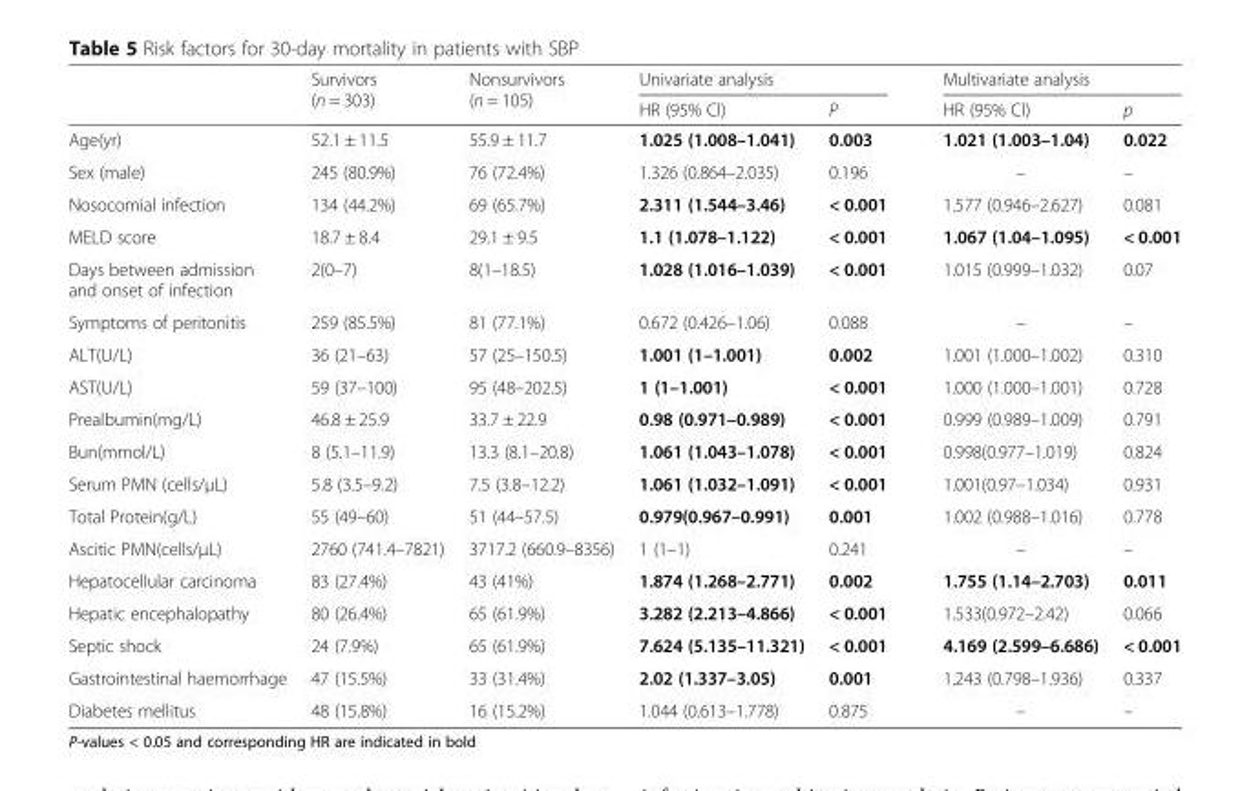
<table><thead><tr><td rowspan="2"></td><td rowspan="2">Survivors (n = 303)</td><td rowspan="2">Nonsurvivors (n = 105)</td><td colspan="2">Univariate analysis</td><td colspan="2">Multivariate analysis</td></tr><tr><td>HR (95% Cl)</td><td>P</td><td>HR (95% Cl)</td><td>p</td></tr></thead><tbody><tr><td>Age(yr)</td><td>52.1 ± 11.5</td><td>55.9 ± 11.7</td><td>1.025 (1.008–1.041)</td><td>0.003</td><td>1.021 (1.003–1.04)</td><td>0.022</td></tr><tr><td>Sex (male)</td><td>245 (80.9%)</td><td>76 (72.4%)</td><td>1.326 (0.864–2.035)</td><td>0.196</td><td>–</td><td>–</td></tr><tr><td>Nosocomial infection</td><td>134 (44.2%)</td><td>69 (65.7%)</td><td>2.311 (1.544–3.46)</td><td>&lt; 0.001</td><td>1.577 (0.946–2.627)</td><td>0.081</td></tr><tr><td>MELD score</td><td>18.7 ± 8.4</td><td>29.1 ± 9.5</td><td>1.1 (1.078–1.122)</td><td>&lt; 0.001</td><td>1.067 (1.04–1.095)</td><td>&lt; 0.001</td></tr><tr><td>Days between admission and onset of infection</td><td>2(0–7)</td><td>8(1–18.5)</td><td>1.028 (1.016–1.039)</td><td>&lt; 0.001</td><td>1.015 (0.999–1.032)</td><td>0.07</td></tr><tr><td>Symptoms of peritonitis</td><td>259 (85.5%)</td><td>81 (77.1%)</td><td>0.672 (0.426–1.06)</td><td>0.088</td><td>–</td><td>–</td></tr><tr><td>ALT(U/L)</td><td>36 (21–63)</td><td>57 (25–150.5)</td><td>1.001 (1–1.001)</td><td>0.002</td><td>1.001 (1.000–1.002)</td><td>0.310</td></tr><tr><td>AST(U/L)</td><td>59 (37–100)</td><td>95 (48–202.5)</td><td>1 (1–1.001)</td><td>&lt; 0.001</td><td>1.000 (1.000–1.001)</td><td>0.728</td></tr><tr><td>Prealbumin(mg/L)</td><td>46.8 ± 25.9</td><td>33.7 ± 22.9</td><td>0.98 (0.971–0.989)</td><td>&lt; 0.001</td><td>0.999 (0.989–1.009)</td><td>0.791</td></tr><tr><td>Bun(mmol/L)</td><td>8 (5.1–11.9)</td><td>13.3 (8.1–20.8)</td><td>1.061 (1.043–1.078)</td><td>&lt; 0.001</td><td>0.998(0.977–1.019)</td><td>0.824</td></tr><tr><td>Serum PMN (cells/μL)</td><td>5.8 (3.5–9.2)</td><td>7.5 (3.8–12.2)</td><td>1.061 (1.032–1.091)</td><td>&lt; 0.001</td><td>1.001(0.97–1.034)</td><td>0.931</td></tr><tr><td>Total Protein(g/L)</td><td>55 (49–60)</td><td>51 (44–57.5)</td><td>0.979(0.967–0.991)</td><td>0.001</td><td>1.002 (0.988–1.016)</td><td>0.778</td></tr><tr><td>Ascitic PMN(cells/μL)</td><td>2760 (741.4–7821)</td><td>3717.2 (660.9–8356)</td><td>1 (1–1)</td><td>0.241</td><td>–</td><td>–</td></tr><tr><td>Hepatocellular carcinoma</td><td>83 (27.4%)</td><td>43 (41%)</td><td>1.874 (1.268–2.771)</td><td>0.002</td><td>1.755 (1.14–2.703)</td><td>0.011</td></tr><tr><td>Hepatic encephalopathy</td><td>80 (26.4%)</td><td>65 (61.9%)</td><td>3.282 (2.213–4.866)</td><td>&lt; 0.001</td><td>1.533(0.972–2.42)</td><td>0.066</td></tr><tr><td>Septic shock</td><td>24 (7.9%)</td><td>65 (61.9%)</td><td>7.624 (5.135–11.321)</td><td>&lt; 0.001</td><td>4.169 (2.599–6.686)</td><td>&lt; 0.001</td></tr><tr><td>Gastrointestinal haemorrhage</td><td>47 (15.5%)</td><td>33 (31.4%)</td><td>2.02 (1.337–3.05)</td><td>0.001</td><td>1.243 (0.798–1.936)</td><td>0.337</td></tr><tr><td>Diabetes mellitus</td><td>48 (15.8%)</td><td>16 (15.2%)</td><td>1.044 (0.613–1.778)</td><td>0.875</td><td>–</td><td>–</td></tr></tbody></table>